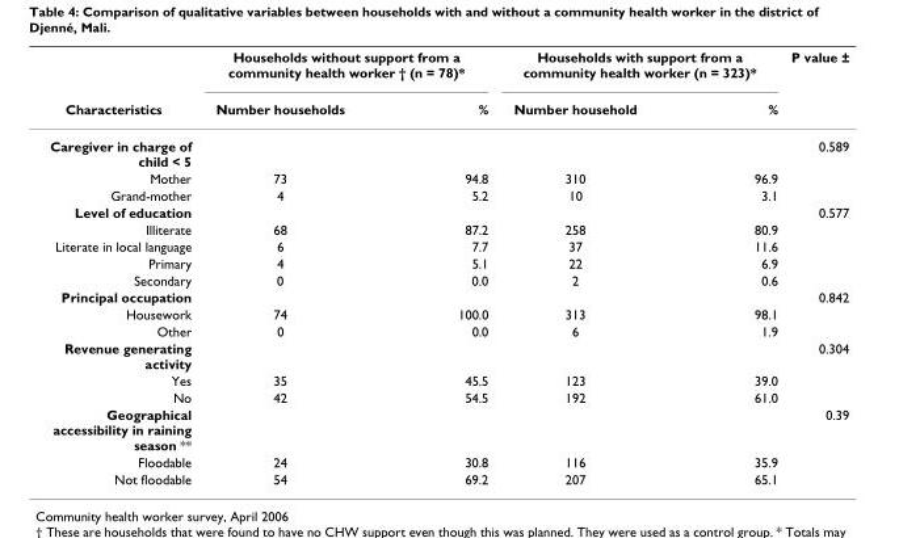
<table><thead><tr><td rowspan="2">Characteristics</td><td colspan="2">Households without support from a community health worker † (n = 78)*</td><td colspan="2">Households with support from a community health worker (n = 323)*</td><td rowspan="2">P value ±</td></tr><tr><td>Number households</td><td>%</td><td>Number household</td><td>%</td></tr></thead><tbody><tr><td>Caregiver in charge of child &lt; 5</td><td></td><td></td><td></td><td></td><td>0.589</td></tr><tr><td>Mother</td><td>73</td><td>94.8</td><td>310</td><td>96.9</td><td></td></tr><tr><td>Grand-mother</td><td>4</td><td>5.2</td><td>10</td><td>3.1</td><td></td></tr><tr><td>Level of education</td><td></td><td></td><td></td><td></td><td>0.577</td></tr><tr><td>Illiterate</td><td>68</td><td>87.2</td><td>258</td><td>80.9</td><td></td></tr><tr><td>Literate in local language</td><td>6</td><td>7.7</td><td>37</td><td>11.6</td><td></td></tr><tr><td>Primary</td><td>4</td><td>5.1</td><td>22</td><td>6.9</td><td></td></tr><tr><td>Secondary</td><td>0</td><td>0.0</td><td>2</td><td>0.6</td><td></td></tr><tr><td>Principal occupation</td><td></td><td></td><td></td><td></td><td>0.842</td></tr><tr><td>Housework</td><td>74</td><td>100.0</td><td>313</td><td>98.1</td><td></td></tr><tr><td>Other</td><td>0</td><td>0.0</td><td>6</td><td>1.9</td><td></td></tr><tr><td>Revenue generating activity</td><td></td><td></td><td></td><td></td><td>0.304</td></tr><tr><td>Yes</td><td>35</td><td>45.5</td><td>123</td><td>39.0</td><td></td></tr><tr><td>No</td><td>42</td><td>54.5</td><td>192</td><td>61.0</td><td></td></tr><tr><td>Geographical accessibility in raining season **</td><td></td><td></td><td></td><td></td><td>0.39</td></tr><tr><td>Floodable</td><td>24</td><td>30.8</td><td>116</td><td>35.9</td><td></td></tr><tr><td>Not floodable</td><td>54</td><td>69.2</td><td>207</td><td>65.1</td><td></td></tr></tbody></table>